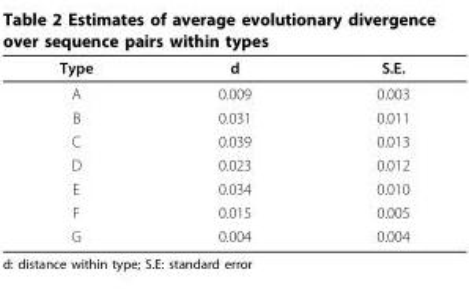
<table><thead><tr><td>Type</td><td>d</td><td>S.E.</td></tr></thead><tbody><tr><td>A</td><td>0.009</td><td>0.003</td></tr><tr><td>B</td><td>0.031</td><td>0.011</td></tr><tr><td>C</td><td>0.039</td><td>0.013</td></tr><tr><td>D</td><td>0.023</td><td>0.012</td></tr><tr><td>E</td><td>0.034</td><td>0.010</td></tr><tr><td>F</td><td>0.015</td><td>0.005</td></tr><tr><td>G</td><td>0.004</td><td>0.004</td></tr></tbody></table>